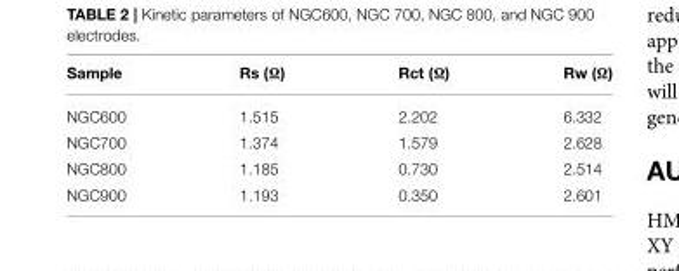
<table><thead><tr><td>Sample</td><td>Rs (Ω)</td><td>Rct (Ω)</td><td>Rw (Ω)</td></tr></thead><tbody><tr><td>NGC600</td><td>1.515</td><td>2.202</td><td>6.332</td></tr><tr><td>NGC700</td><td>1.374</td><td>1.579</td><td>2.628</td></tr><tr><td>NGC800</td><td>1.185</td><td>0.730</td><td>2.514</td></tr><tr><td>NGC900</td><td>1.193</td><td>0.350</td><td>2.601</td></tr></tbody></table>